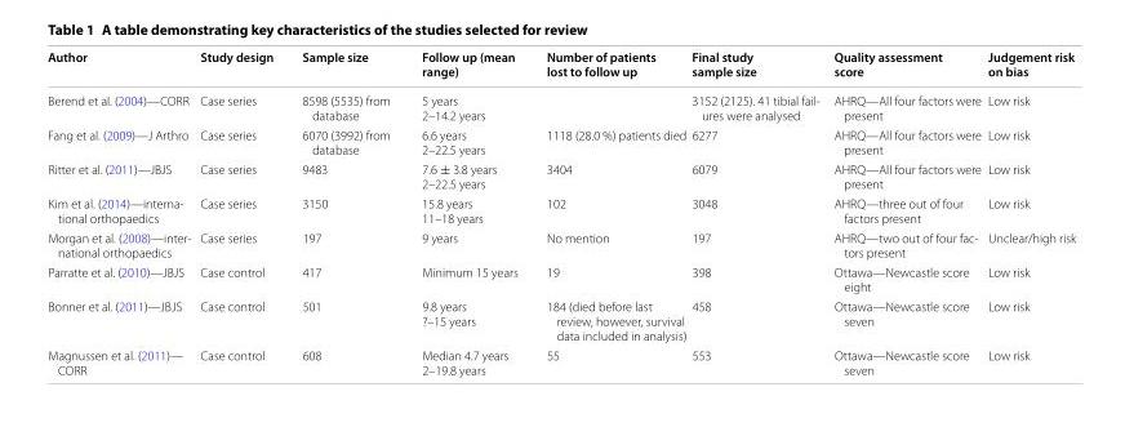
<table><thead><tr><td>Author</td><td>Study design</td><td>Sample size</td><td>Follow up (mean range)</td><td>Number of patients lost to follow up</td><td>Final study sample size</td><td>Quality assessment score</td><td>Judgement risk on bias</td></tr></thead><tbody><tr><td>Berend et al. (2004)—CORR</td><td>Case series</td><td>8598 (5535) from database</td><td>5 years 2–14.2 years</td><td></td><td>3152 (2125). 41 tibial fail- ures were analysed</td><td>AHRQ—All four factors were present</td><td>Low risk</td></tr><tr><td>Fang et al. (2009)—J Arthro</td><td>Case series</td><td>6070 (3992) from database</td><td>6.6 years 2–22.5 years</td><td>1118 (28.0 %) patients died</td><td>6277</td><td>AHRQ—All four factors were present</td><td>Low risk</td></tr><tr><td>Ritter et al. (2011)—JBJS</td><td>Case series</td><td>9483</td><td>7.6 ± 3.8 years 2–22.5 years</td><td>3404</td><td>6079</td><td>AHRQ—All four factors were present</td><td>Low risk</td></tr><tr><td>Kim et al. (2014)—interna- tional orthopaedics</td><td>Case series</td><td>3150</td><td>15.8 years 11–18 years</td><td>102</td><td>3048</td><td>AHRQ—three out of four factors present</td><td>Low risk</td></tr><tr><td>Morgan et al. (2008)—inter- national orthopaedics</td><td>Case series</td><td>197</td><td>9 years</td><td>No mention</td><td>197</td><td>AHRQ—two out of four fac- tors present</td><td>Unclear/high risk</td></tr><tr><td>Parratte et al. (2010)—JBJS</td><td>Case control</td><td>417</td><td>Minimum 15 years</td><td>19</td><td>398</td><td>Ottawa—Newcastle score eight</td><td>Low risk</td></tr><tr><td>Bonner et al. (2011)—JBJS</td><td>Case control</td><td>501</td><td>9.8 years ?–15 years</td><td>184 (died before last review, however, survival data included in analysis)</td><td>458</td><td>Ottawa—Newcastle score seven</td><td>Low risk</td></tr><tr><td>Magnussen et al. (2011)— CORR</td><td>Case control</td><td>608</td><td>Median 4.7 years 2–19.8 years</td><td>55</td><td>553</td><td>Ottawa—Newcastle score seven</td><td>Low risk</td></tr></tbody></table>